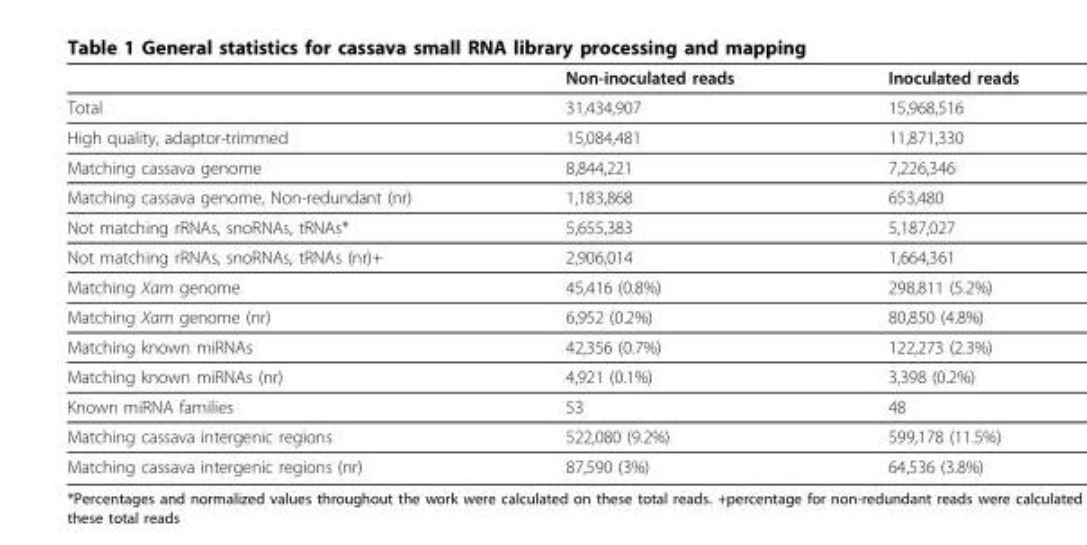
<table><thead><tr><td></td><td>Non-inoculated reads</td><td>Inoculated reads</td></tr></thead><tbody><tr><td>Total</td><td>31,434,907</td><td>15,968,516</td></tr><tr><td>High quality, adaptor-trimmed</td><td>15,084,481</td><td>11,871,330</td></tr><tr><td>Matching cassava genome</td><td>8,844,221</td><td>7,226,346</td></tr><tr><td>Matching cassava genome, Non-redundant (nr)</td><td>1,183,868</td><td>653,480</td></tr><tr><td>Not matching rRNAs, snoRNAs, tRNAs*</td><td>5,655,383</td><td>5,187,027</td></tr><tr><td>Not matching rRNAs, snoRNAs, tRNAs (nr)+</td><td>2,906,014</td><td>1,664,361</td></tr><tr><td>Matching Xam genome</td><td>45,416 (0.8%)</td><td>298,811 (5.2%)</td></tr><tr><td>Matching Xam genome (nr)</td><td>6,952 (0.2%)</td><td>80,850 (4.8%)</td></tr><tr><td>Matching known miRNAs</td><td>42,356 (0.7%)</td><td>122,273 (2.3%)</td></tr><tr><td>Matching known miRNAs (nr)</td><td>4,921 (0.1%)</td><td>3,398 (0.2%)</td></tr><tr><td>Known miRNA families</td><td>53</td><td>48</td></tr><tr><td>Matching cassava intergenic regions</td><td>522,080 (9.2%)</td><td>599,178 (11.5%)</td></tr><tr><td>Matching cassava intergenic regions (nr)</td><td>87,590 (3%)</td><td>64,536 (3.8%)</td></tr></tbody></table>